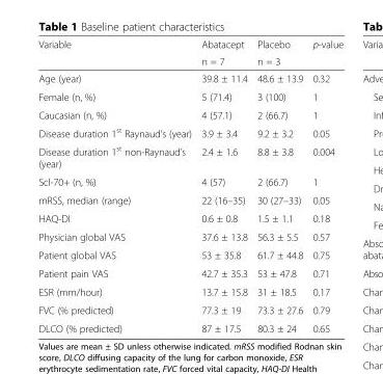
<table><thead><tr><td rowspan="2">Variable</td><td rowspan="2">Abatacept n = 7</td><td rowspan="2">Placebo n = 3</td><td rowspan="2">p-value</td></tr><tr></tr></thead><tbody><tr><td>Age (year)</td><td>39.8 ± 11.4</td><td>48.6 ± 13.9</td><td>0.32</td></tr><tr><td>Female (n, %)</td><td>5 (71.4)</td><td>3 (100)</td><td>1</td></tr><tr><td>Caucasian (n, %)</td><td>4 (57.1)</td><td>2 (66.7)</td><td>1</td></tr><tr><td>Disease duration 1<sup>st</sup> Raynaud’s (year)</td><td>3.9 ± 3.4</td><td>9.2 ± 3.2</td><td>0.05</td></tr><tr><td>Disease duration 1<sup>st</sup> non-Raynaud’s (year)</td><td>2.4 ± 1.6</td><td>8.8 ± 3.8</td><td>0.004</td></tr><tr><td>Scl-70+ (n, %)</td><td>4 (57)</td><td>2 (66.7)</td><td>1</td></tr><tr><td>mRSS, median (range)</td><td>22 (16–35)</td><td>30 (27–33)</td><td>0.05</td></tr><tr><td>HAQ-DI</td><td>0.6 ± 0.8</td><td>1.5 ± 1.1</td><td>0.18</td></tr><tr><td>Physician global VAS</td><td>37.6 ± 13.8</td><td>56.3 ± 5.5</td><td>0.57</td></tr><tr><td>Patient global VAS</td><td>53 ± 35.8</td><td>61.7 ± 44.8</td><td>0.75</td></tr><tr><td>Patient pain VAS</td><td>42.7 ± 35.3</td><td>53 ± 47.8</td><td>0.71</td></tr><tr><td>ESR (mm/hour)</td><td>13.7 ± 15.8</td><td>31 ± 18.5</td><td>0.17</td></tr><tr><td>FVC (% predicted)</td><td>77.3 ± 19</td><td>73.3 ± 27.6</td><td>0.79</td></tr><tr><td>DLCO (% predicted)</td><td>87 ± 17.5</td><td>80.3 ± 24</td><td>0.65</td></tr></tbody></table>